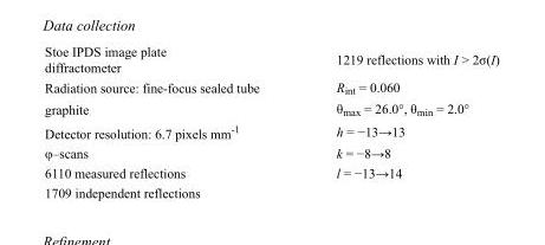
<table><tbody><tr><td>Stoe IPDS image plate diffractometer</td><td>1219 reflections with I &gt; 2σ(I)</td></tr><tr><td>Radiation source: fine-focus sealed tube</td><td>R<sub>int</sub> = 0.060</td></tr><tr><td>graphite</td><td>θ<sub>max</sub> = 26.0°, θ<sub>min</sub> = 2.0°</td></tr><tr><td>Detector resolution: 6.7 pixels mm<sup>-1</sup></td><td>h = −13→13</td></tr><tr><td>φ–scans</td><td>k = −8→8</td></tr><tr><td>6110 measured reflections</td><td>l = −13→14</td></tr><tr><td>1709 independent reflections</td><td></td></tr></tbody></table>